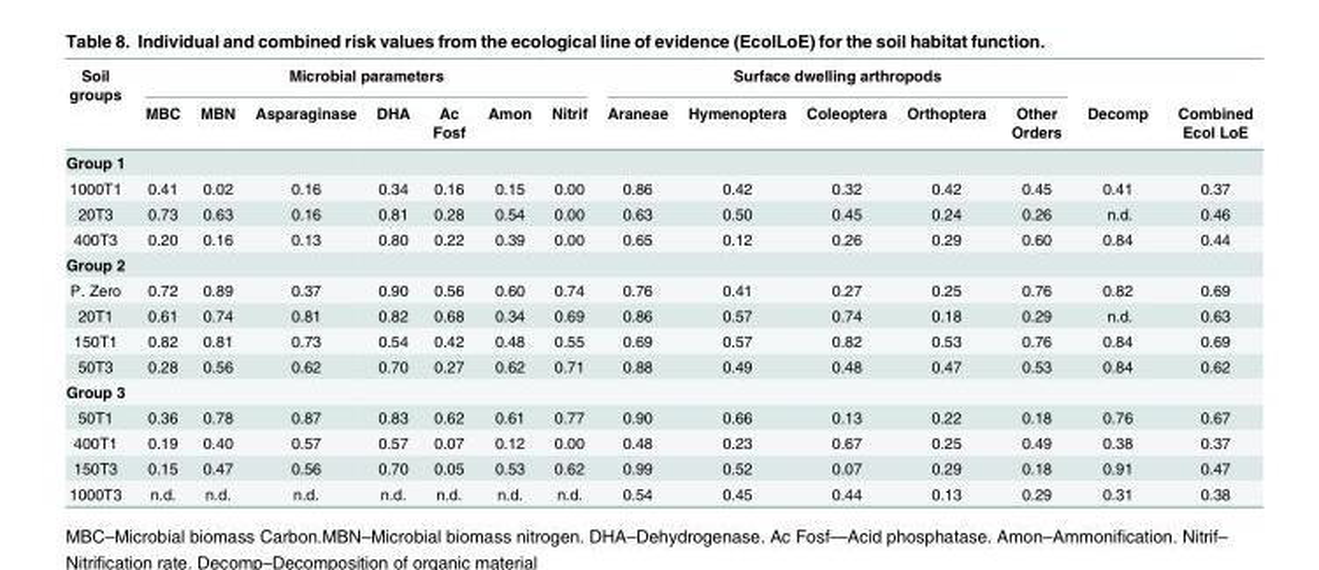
<table><thead><tr><td rowspan="2">Soil groups</td><td colspan="7">Microbial parameters</td><td colspan="5">Surface dwelling arthropods</td><td rowspan="2">Decomp</td><td rowspan="2">Combined Ecol LoE</td></tr><tr><td>MBC</td><td>MBN</td><td>Asparaginase</td><td>DHA</td><td>Ac Fosf</td><td>Amon</td><td>Nitrif</td><td>Araneae</td><td>Hymenoptera</td><td>Coleoptera</td><td>Orthoptera</td><td>Other Orders</td></tr></thead><tbody><tr><td colspan="15">Group 1</td></tr><tr><td>1000T1</td><td>0.41</td><td>0.02</td><td>0.16</td><td>0.34</td><td>0.16</td><td>0.15</td><td>0.00</td><td>0.86</td><td>0.42</td><td>0.32</td><td>0.42</td><td>0.45</td><td>0.41</td><td>0.37</td></tr><tr><td>20T3</td><td>0.73</td><td>0.63</td><td>0.16</td><td>0.81</td><td>0.28</td><td>0.54</td><td>0.00</td><td>0.63</td><td>0.50</td><td>0.45</td><td>0.24</td><td>0.26</td><td>n.d.</td><td>0.46</td></tr><tr><td>400T3</td><td>0.20</td><td>0.16</td><td>0.13</td><td>0.80</td><td>0.22</td><td>0.39</td><td>0.00</td><td>0.65</td><td>0.12</td><td>0.26</td><td>0.29</td><td>0.60</td><td>0.84</td><td>0.44</td></tr><tr><td colspan="15">Group 2</td></tr><tr><td>P. Zero</td><td>0.72</td><td>0.89</td><td>0.37</td><td>0.90</td><td>0.56</td><td>0.60</td><td>0.74</td><td>0.76</td><td>0.41</td><td>0.27</td><td>0.25</td><td>0.76</td><td>0.82</td><td>0.69</td></tr><tr><td>20T1</td><td>0.61</td><td>0.74</td><td>0.81</td><td>0.82</td><td>0.68</td><td>0.34</td><td>0.69</td><td>0.86</td><td>0.57</td><td>0.74</td><td>0.18</td><td>0.29</td><td>n.d.</td><td>0.63</td></tr><tr><td>150T1</td><td>0.82</td><td>0.81</td><td>0.73</td><td>0.54</td><td>0.42</td><td>0.48</td><td>0.55</td><td>0.69</td><td>0.57</td><td>0.82</td><td>0.53</td><td>0.76</td><td>0.84</td><td>0.69</td></tr><tr><td>50T3</td><td>0.28</td><td>0.56</td><td>0.62</td><td>0.70</td><td>0.27</td><td>0.62</td><td>0.71</td><td>0.88</td><td>0.49</td><td>0.48</td><td>0.47</td><td>0.53</td><td>0.84</td><td>0.62</td></tr><tr><td colspan="15">Group 3</td></tr><tr><td>50T1</td><td>0.36</td><td>0.78</td><td>0.87</td><td>0.83</td><td>0.62</td><td>0.61</td><td>0.77</td><td>0.90</td><td>0.66</td><td>0.13</td><td>0.22</td><td>0.18</td><td>0.76</td><td>0.67</td></tr><tr><td>400T1</td><td>0.19</td><td>0.40</td><td>0.57</td><td>0.57</td><td>0.07</td><td>0.12</td><td>0.00</td><td>0.48</td><td>0.23</td><td>0.67</td><td>0.25</td><td>0.49</td><td>0.38</td><td>0.37</td></tr><tr><td>150T3</td><td>0.15</td><td>0.47</td><td>0.56</td><td>0.70</td><td>0.05</td><td>0.53</td><td>0.62</td><td>0.99</td><td>0.52</td><td>0.07</td><td>0.29</td><td>0.18</td><td>0.91</td><td>0.47</td></tr><tr><td>1000T3</td><td>n.d.</td><td>n.d.</td><td>n.d.</td><td>n.d.</td><td>n.d.</td><td>n.d.</td><td>n.d.</td><td>0.54</td><td>0.45</td><td>0.44</td><td>0.13</td><td>0.29</td><td>0.31</td><td>0.38</td></tr></tbody></table>